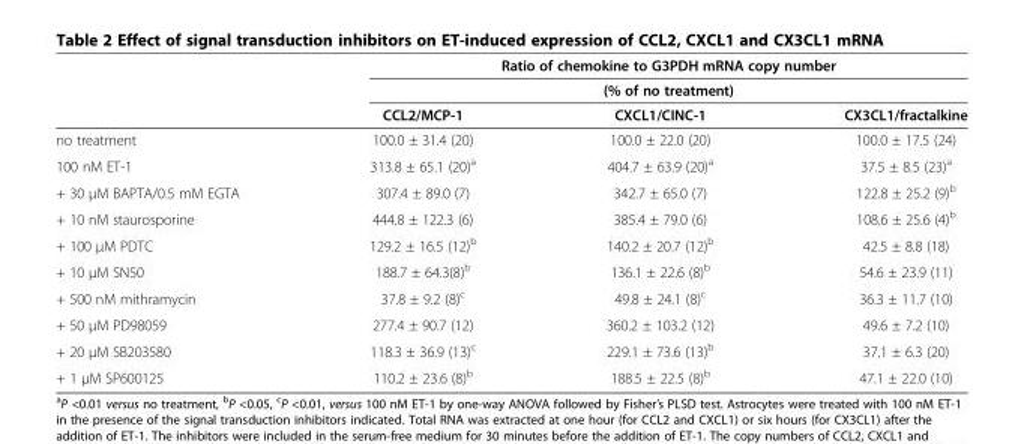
<table><thead><tr><td rowspan="3"></td><td rowspan="2" colspan="3">Ratio of chemokine to G3PDH mRNA copy number (% of no treatment)</td></tr><tr></tr><tr><td>CCL2/MCP-1</td><td>CXCL1/CINC-1</td><td>CX3CL1/fractalkine</td></tr></thead><tbody><tr><td>no treatment</td><td>100.0 ± 31.4 (20)</td><td>100.0 ± 22.0 (20)</td><td>100.0 ± 17.5 (24)</td></tr><tr><td>100 nM ET-1</td><td>313.8 ± 65.1 (20)<sup>a</sup></td><td>404.7 ± 63.9 (20)<sup>a</sup></td><td>37.5 ± 8.5 (23)<sup>a</sup></td></tr><tr><td>+ 30 μM BAPTA/0.5 mM EGTA</td><td>307.4 ± 89.0 (7)</td><td>342.7 ± 65.0 (7)</td><td>122.8 ± 25.2 (9)<sup>b</sup></td></tr><tr><td>+ 10 nM staurosporine</td><td>444.8 ± 122.3 (6)</td><td>385.4 ± 79.0 (6)</td><td>108.6 ± 25.6 (4)<sup>b</sup></td></tr><tr><td>+ 100 μM PDTC</td><td>129.2 ± 16.5 (12)<sup>b</sup></td><td>140.2 ± 20.7 (12)<sup>b</sup></td><td>42.5 ± 8.8 (18)</td></tr><tr><td>+ 10 μM SN50</td><td>188.7 ± 64.3(8)<sup>b</sup></td><td>136.1 ± 22.6 (8)<sup>b</sup></td><td>54.6 ± 23.9 (11)</td></tr><tr><td>+ 500 nM mithramycin</td><td>37.8 ± 9.2 (8)<sup>c</sup></td><td>49.8 ± 24.1 (8)<sup>c</sup></td><td>36.3 ± 11.7 (10)</td></tr><tr><td>+ 50 μM PD98059</td><td>277.4 ± 90.7 (12)</td><td>360.2 ± 103.2 (12)</td><td>49.6 ± 7.2 (10)</td></tr><tr><td>+ 20 μM SB203580</td><td>118.3 ± 36.9 (13)<sup>c</sup></td><td>229.1 ± 73.6 (13)<sup>b</sup></td><td>37.1 ± 6.3 (20)</td></tr><tr><td>+ 1 μM SP600125</td><td>110.2 ± 23.6 (8)<sup>b</sup></td><td>188.5 ± 22.5 (8)<sup>b</sup></td><td>47.1 ± 22.0 (10)</td></tr></tbody></table>